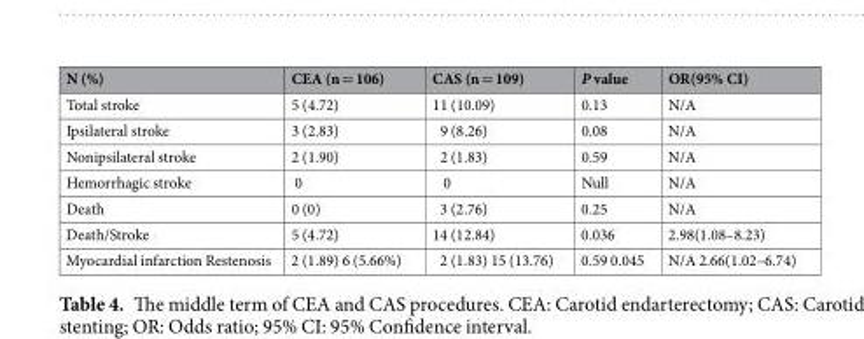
<table><thead><tr><td>N (%)</td><td>CEA (n = 106)</td><td>CAS (n = 109)</td><td>P value</td><td>OR(95% CI)</td></tr></thead><tbody><tr><td>Total stroke</td><td>5 (4.72)</td><td>11 (10.09)</td><td>0.13</td><td>N/A</td></tr><tr><td>Ipsilateral stroke</td><td>3 (2.83)</td><td>9 (8.26)</td><td>0.08</td><td>N/A</td></tr><tr><td>Nonipsilateral stroke</td><td>2 (1.90)</td><td>2 (1.83)</td><td>0.59</td><td>N/A</td></tr><tr><td>Hemorrhagic stroke</td><td>0</td><td>0</td><td>Null</td><td>N/A</td></tr><tr><td>Death</td><td>0 (0)</td><td>3 (2.76)</td><td>0.25</td><td>N/A</td></tr><tr><td>Death/Stroke</td><td>5 (4.72)</td><td>14 (12.84)</td><td>0.036</td><td>2.98(1.08–8.23)</td></tr><tr><td>Myocardial infarction Restenosis</td><td>2 (1.89) 6 (5.66%)</td><td>2 (1.83) 15 (13.76)</td><td>0.59 0.045</td><td>N/A 2.66(1.02–6.74)</td></tr></tbody></table>